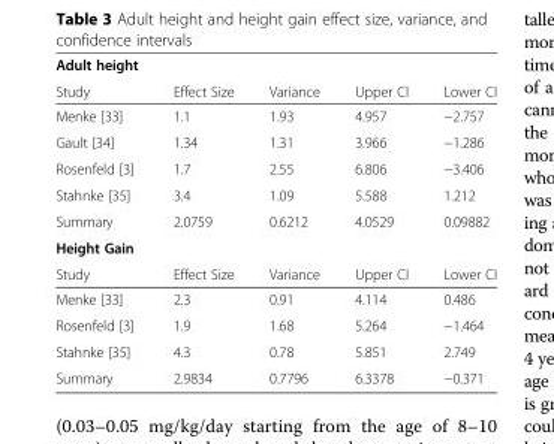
<table><tbody><tr><td colspan="5">Adult height</td></tr><tr><td>Study</td><td>Effect Size</td><td>Variance</td><td>Upper CI</td><td>Lower CI</td></tr><tr><td>Menke [33]</td><td>1.1</td><td>1.93</td><td>4.957</td><td>−2.757</td></tr><tr><td>Gault [34]</td><td>1.34</td><td>1.31</td><td>3.966</td><td>−1.286</td></tr><tr><td>Rosenfeld [3]</td><td>1.7</td><td>2.55</td><td>6.806</td><td>−3.406</td></tr><tr><td>Stahnke [35]</td><td>3.4</td><td>1.09</td><td>5.588</td><td>1.212</td></tr><tr><td>Summary</td><td>2.0759</td><td>0.6212</td><td>4.0529</td><td>0.09882</td></tr><tr><td colspan="5">Height Gain</td></tr><tr><td>Study</td><td>Effect Size</td><td>Variance</td><td>Upper CI</td><td>Lower CI</td></tr><tr><td>Menke [33]</td><td>2.3</td><td>0.91</td><td>4.114</td><td>0.486</td></tr><tr><td>Rosenfeld [3]</td><td>1.9</td><td>1.68</td><td>5.264</td><td>−1.464</td></tr><tr><td>Stahnke [35]</td><td>4.3</td><td>0.78</td><td>5.851</td><td>2.749</td></tr><tr><td>Summary</td><td>2.9834</td><td>0.7796</td><td>6.3378</td><td>−0.371</td></tr></tbody></table>